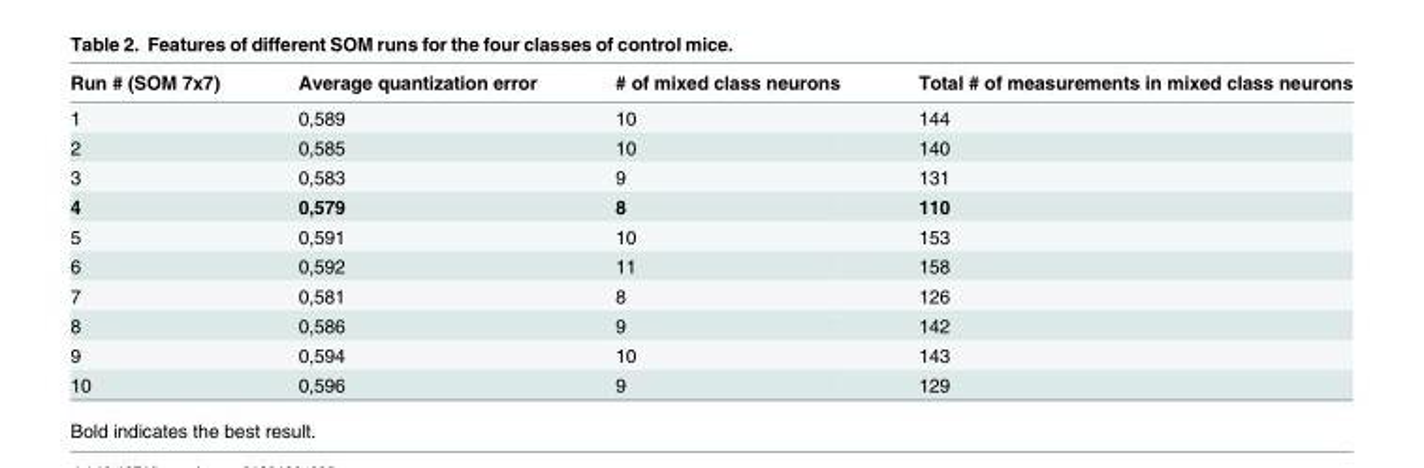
<table><thead><tr><td>Run # (SOM 7x7)</td><td>Average quantization error</td><td># of mixed class neurons</td><td>Total # of measurements in mixed class neurons</td></tr></thead><tbody><tr><td>1</td><td>0,589</td><td>10</td><td>144</td></tr><tr><td>2</td><td>0,585</td><td>10</td><td>140</td></tr><tr><td>3</td><td>0,583</td><td>9</td><td>131</td></tr><tr><td>4</td><td>0,579</td><td>8</td><td>110</td></tr><tr><td>5</td><td>0,591</td><td>10</td><td>153</td></tr><tr><td>6</td><td>0,592</td><td>11</td><td>158</td></tr><tr><td>7</td><td>0,581</td><td>8</td><td>126</td></tr><tr><td>8</td><td>0,586</td><td>9</td><td>142</td></tr><tr><td>9</td><td>0,594</td><td>10</td><td>143</td></tr><tr><td>10</td><td>0,596</td><td>9</td><td>129</td></tr></tbody></table>